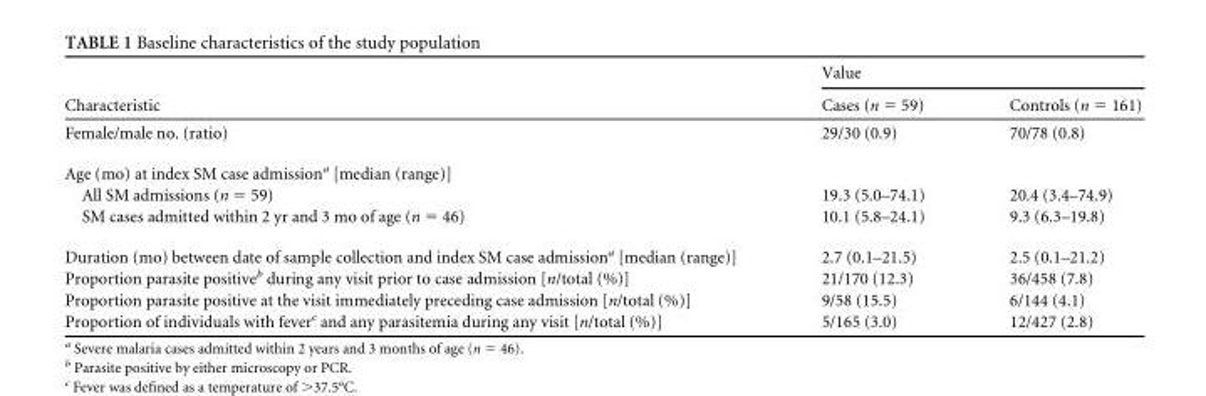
<table><thead><tr><td rowspan="2">Characteristic</td><td colspan="2">Value</td></tr><tr><td>Cases (n = 59)</td><td>Controls (n = 161)</td></tr></thead><tbody><tr><td>Female/male no. (ratio)</td><td>29/30 (0.9)</td><td>70/78 (0.8)</td></tr><tr><td colspan="3">Age (mo) at index SM case admission<sup>a</sup> [median (range)]</td></tr><tr><td>All SM admissions (n = 59)</td><td>19.3 (5.0–74.1)</td><td>20.4 (3.4–74.9)</td></tr><tr><td>SM cases admitted within 2 yr and 3 mo of age (n = 46)</td><td>10.1 (5.8–24.1)</td><td>9.3 (6.3–19.8)</td></tr><tr><td>Duration (mo) between date of sample collection and index SM case admission<sup>a</sup> [median (range)]</td><td>2.7 (0.1–21.5)</td><td>2.5 (0.1–21.2)</td></tr><tr><td>Proportion parasite positive<sup>b</sup> during any visit prior to case admission [n/total (%)]</td><td>21/170 (12.3)</td><td>36/458 (7.8)</td></tr><tr><td>Proportion parasite positive at the visit immediately preceding case admission [n/total (%)]</td><td>9/58 (15.5)</td><td>6/144 (4.1)</td></tr><tr><td>Proportion of individuals with fever<sup>c</sup> and any parasitemia during any visit [n/total (%)]</td><td>5/165 (3.0)</td><td>12/427 (2.8)</td></tr></tbody></table>